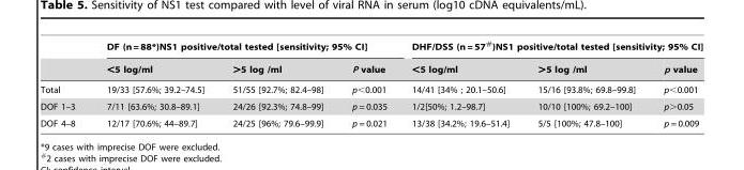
<table><thead><tr><td rowspan="2"></td><td colspan="3">DF (n = 88*)NS1 positive/total tested [sensitivity; 95% CI]</td><td colspan="3">DHF/DSS (n = 57#)NS1 positive/total tested [sensitivity; 95% CI]</td></tr><tr><td>&lt;5 log/ml</td><td>&gt;5 log /ml</td><td>P value</td><td>&lt;5 log/ml</td><td>&gt;5 log /ml</td><td>p value</td></tr></thead><tbody><tr><td>Total</td><td>19/33 [57.6%; 39.2–74.5]</td><td>51/55 [92.7%; 82.4–98]</td><td>p&lt;0.001</td><td>14/41 [34% ; 20.1–50.6]</td><td>15/16 [93.8%; 69.8–99.8]</td><td>p&lt;0.001</td></tr><tr><td>DOF 1–3</td><td>7/11 [63.6%; 30.8–89.1]</td><td>24/26 [92.3%; 74.8–99]</td><td>p = 0.035</td><td>1/2[50%; 1.2–98.7]</td><td>10/10 [100%; 69.2–100]</td><td>p&gt;0.05</td></tr><tr><td>DOF 4–8</td><td>12/17 [70.6%; 44–89.7]</td><td>24/25 [96%; 79.6–99.9]</td><td>p = 0.021</td><td>13/38 [34.2%; 19.6–51.4]</td><td>5/5 [100%; 47.8–100]</td><td>p = 0.009</td></tr></tbody></table>